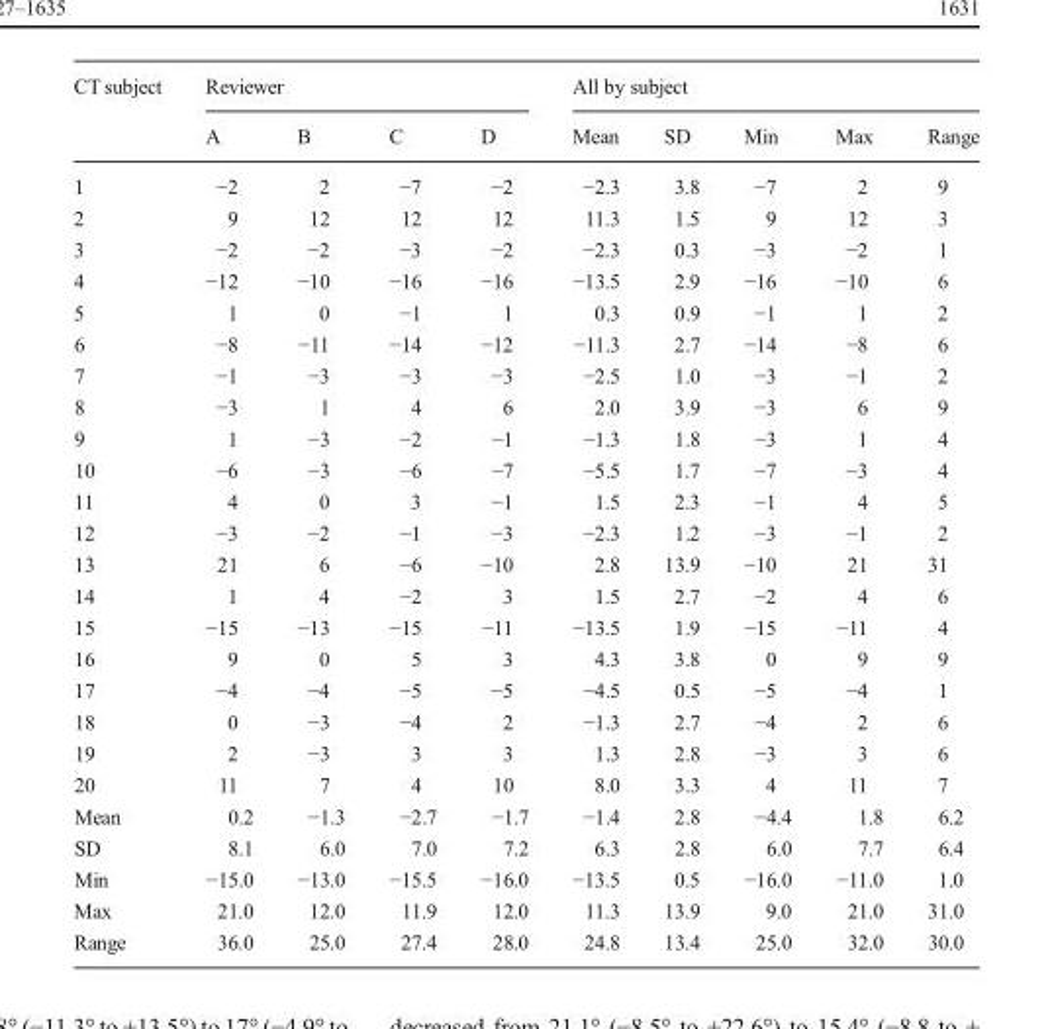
<table><thead><tr><td rowspan="2">CT subject</td><td colspan="4">Reviewer</td><td colspan="5">All by subject</td></tr><tr><td>A</td><td>B</td><td>C</td><td>D</td><td>Mean</td><td>SD</td><td>Min</td><td>Max</td><td>Range</td></tr></thead><tbody><tr><td>1</td><td>−2</td><td>2</td><td>−7</td><td>−2</td><td>−2.3</td><td>3.8</td><td>−7</td><td>2</td><td>9</td></tr><tr><td>2</td><td>9</td><td>12</td><td>12</td><td>12</td><td>11.3</td><td>1.5</td><td>9</td><td>12</td><td>3</td></tr><tr><td>3</td><td>−2</td><td>−2</td><td>−3</td><td>−2</td><td>−2.3</td><td>0.3</td><td>−3</td><td>−2</td><td>1</td></tr><tr><td>4</td><td>−12</td><td>−10</td><td>−16</td><td>−16</td><td>−13.5</td><td>2.9</td><td>−16</td><td>−10</td><td>6</td></tr><tr><td>5</td><td>1</td><td>0</td><td>−1</td><td>1</td><td>0.3</td><td>0.9</td><td>−1</td><td>1</td><td>2</td></tr><tr><td>6</td><td>−8</td><td>−11</td><td>−14</td><td>−12</td><td>−11.3</td><td>2.7</td><td>−14</td><td>−8</td><td>6</td></tr><tr><td>7</td><td>−1</td><td>−3</td><td>−3</td><td>−3</td><td>−2.5</td><td>1.0</td><td>−3</td><td>−1</td><td>2</td></tr><tr><td>8</td><td>−3</td><td>1</td><td>4</td><td>6</td><td>2.0</td><td>3.9</td><td>−3</td><td>6</td><td>9</td></tr><tr><td>9</td><td>1</td><td>−3</td><td>−2</td><td>−1</td><td>−1.3</td><td>1.8</td><td>−3</td><td>1</td><td>4</td></tr><tr><td>10</td><td>−6</td><td>−3</td><td>−6</td><td>−7</td><td>−5.5</td><td>1.7</td><td>−7</td><td>−3</td><td>4</td></tr><tr><td>11</td><td>4</td><td>0</td><td>3</td><td>−1</td><td>1.5</td><td>2.3</td><td>−1</td><td>4</td><td>5</td></tr><tr><td>12</td><td>−3</td><td>−2</td><td>−1</td><td>−3</td><td>−2.3</td><td>1.2</td><td>−3</td><td>−1</td><td>2</td></tr><tr><td>13</td><td>21</td><td>6</td><td>−6</td><td>−10</td><td>2.8</td><td>13.9</td><td>−10</td><td>21</td><td>31</td></tr><tr><td>14</td><td>1</td><td>4</td><td>−2</td><td>3</td><td>1.5</td><td>2.7</td><td>−2</td><td>4</td><td>6</td></tr><tr><td>15</td><td>−15</td><td>−13</td><td>−15</td><td>−11</td><td>−13.5</td><td>1.9</td><td>−15</td><td>−11</td><td>4</td></tr><tr><td>16</td><td>9</td><td>0</td><td>5</td><td>3</td><td>4.3</td><td>3.8</td><td>0</td><td>9</td><td>9</td></tr><tr><td>17</td><td>−4</td><td>−4</td><td>−5</td><td>−5</td><td>−4.5</td><td>0.5</td><td>−5</td><td>−4</td><td>1</td></tr><tr><td>18</td><td>0</td><td>−3</td><td>−4</td><td>2</td><td>−1.3</td><td>2.7</td><td>−4</td><td>2</td><td>6</td></tr><tr><td>19</td><td>2</td><td>−3</td><td>3</td><td>3</td><td>1.3</td><td>2.8</td><td>−3</td><td>3</td><td>6</td></tr><tr><td>20</td><td>11</td><td>7</td><td>4</td><td>10</td><td>8.0</td><td>3.3</td><td>4</td><td>11</td><td>7</td></tr><tr><td>Mean</td><td>0.2</td><td>−1.3</td><td>−2.7</td><td>−1.7</td><td>−1.4</td><td>2.8</td><td>−4.4</td><td>1.8</td><td>6.2</td></tr><tr><td>SD</td><td>8.1</td><td>6.0</td><td>7.0</td><td>7.2</td><td>6.3</td><td>2.8</td><td>6.0</td><td>7.7</td><td>6.4</td></tr><tr><td>Min</td><td>−15.0</td><td>−13.0</td><td>−15.5</td><td>−16.0</td><td>−13.5</td><td>0.5</td><td>−16.0</td><td>−11.0</td><td>1.0</td></tr><tr><td>Max</td><td>21.0</td><td>12.0</td><td>11.9</td><td>12.0</td><td>11.3</td><td>13.9</td><td>9.0</td><td>21.0</td><td>31.0</td></tr><tr><td>Range</td><td>36.0</td><td>25.0</td><td>27.4</td><td>28.0</td><td>24.8</td><td>13.4</td><td>25.0</td><td>32.0</td><td>30.0</td></tr></tbody></table>